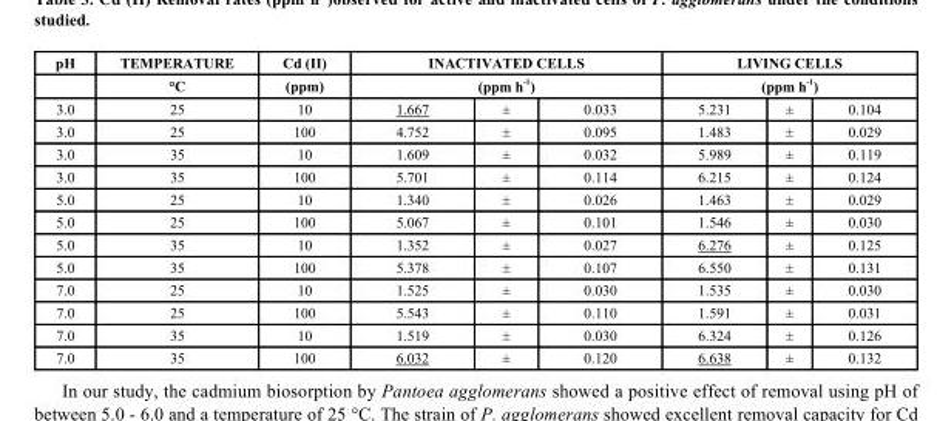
<table><thead><tr><td rowspan="3">pH 3.0</td><td rowspan="3">TEMPERATURE °C 25</td><td rowspan="3">Cd (II) (ppm) 10</td><td rowspan="2" colspan="3">INACTIVATED CELLS (ppm h <sup>-1</sup>)</td><td rowspan="2" colspan="3">LIVING CELLS (ppm h <sup>-1</sup>)</td></tr><tr></tr><tr><td>1.667</td><td>±</td><td>0.033</td><td>5.231</td><td>±</td><td>0.104</td></tr></thead><tbody><tr><td>3.0</td><td>25</td><td>100</td><td>4.752</td><td>±</td><td>0.095</td><td>1.483</td><td>±</td><td>0.029</td></tr><tr><td>3.0</td><td>35</td><td>10</td><td>1.609</td><td>±</td><td>0.032</td><td>5.989</td><td>±</td><td>0.119</td></tr><tr><td>3.0</td><td>35</td><td>100</td><td>5.701</td><td>±</td><td>0.114</td><td>6.215</td><td>±</td><td>0.124</td></tr><tr><td>5.0</td><td>25</td><td>10</td><td>1.340</td><td>±</td><td>0.026</td><td>1.463</td><td>±</td><td>0.029</td></tr><tr><td>5.0</td><td>25</td><td>100</td><td>5.067</td><td>±</td><td>0.101</td><td>1.546</td><td>±</td><td>0.030</td></tr><tr><td>5.0</td><td>35</td><td>10</td><td>1.352</td><td>±</td><td>0.027</td><td>6.276</td><td>±</td><td>0.125</td></tr><tr><td>5.0</td><td>35</td><td>100</td><td>5.378</td><td>±</td><td>0.107</td><td>6.550</td><td>±</td><td>0.131</td></tr><tr><td>7.0</td><td>25</td><td>10</td><td>1.525</td><td>±</td><td>0.030</td><td>1.535</td><td>±</td><td>0.030</td></tr><tr><td>7.0</td><td>25</td><td>100</td><td>5.543</td><td>±</td><td>0.110</td><td>1.591</td><td>±</td><td>0.031</td></tr><tr><td>7.0</td><td>35</td><td>10</td><td>1.519</td><td>±</td><td>0.030</td><td>6.324</td><td>±</td><td>0.126</td></tr><tr><td>7.0</td><td>35</td><td>100</td><td>6.032</td><td>±</td><td>0.120</td><td>6.638</td><td>±</td><td>0.132</td></tr></tbody></table>